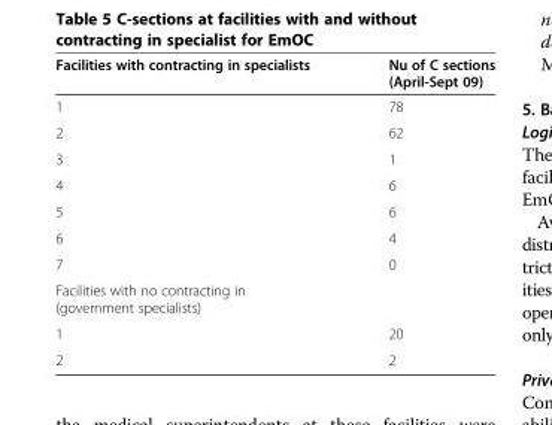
<table><thead><tr><td>Facilities with contracting in specialists</td><td>Nu of C sections (April-Sept 09)</td></tr></thead><tbody><tr><td>1</td><td>78</td></tr><tr><td>2</td><td>62</td></tr><tr><td>3</td><td>1</td></tr><tr><td>4</td><td>6</td></tr><tr><td>5</td><td>6</td></tr><tr><td>6</td><td>4</td></tr><tr><td>7</td><td>0</td></tr><tr><td colspan="2">Facilities with no contracting in (government specialists)</td></tr><tr><td>1</td><td>20</td></tr><tr><td>2</td><td>2</td></tr></tbody></table>